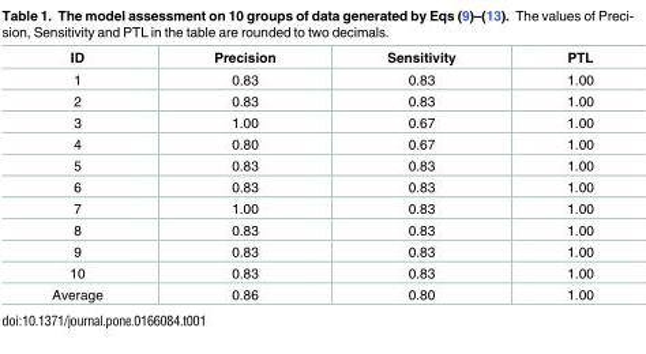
<table><thead><tr><td>ID</td><td>Precision</td><td>Sensitivity</td><td>PTL</td></tr></thead><tbody><tr><td>1</td><td>0.83</td><td>0.83</td><td>1.00</td></tr><tr><td>2</td><td>0.83</td><td>0.83</td><td>1.00</td></tr><tr><td>3</td><td>1.00</td><td>0.67</td><td>1.00</td></tr><tr><td>4</td><td>0.80</td><td>0.67</td><td>1.00</td></tr><tr><td>5</td><td>0.83</td><td>0.83</td><td>1.00</td></tr><tr><td>6</td><td>0.83</td><td>0.83</td><td>1.00</td></tr><tr><td>7</td><td>1.00</td><td>0.83</td><td>1.00</td></tr><tr><td>8</td><td>0.83</td><td>0.83</td><td>1.00</td></tr><tr><td>9</td><td>0.83</td><td>0.83</td><td>1.00</td></tr><tr><td>10</td><td>0.83</td><td>0.83</td><td>1.00</td></tr><tr><td>Average</td><td>0.86</td><td>0.80</td><td>1.00</td></tr></tbody></table>